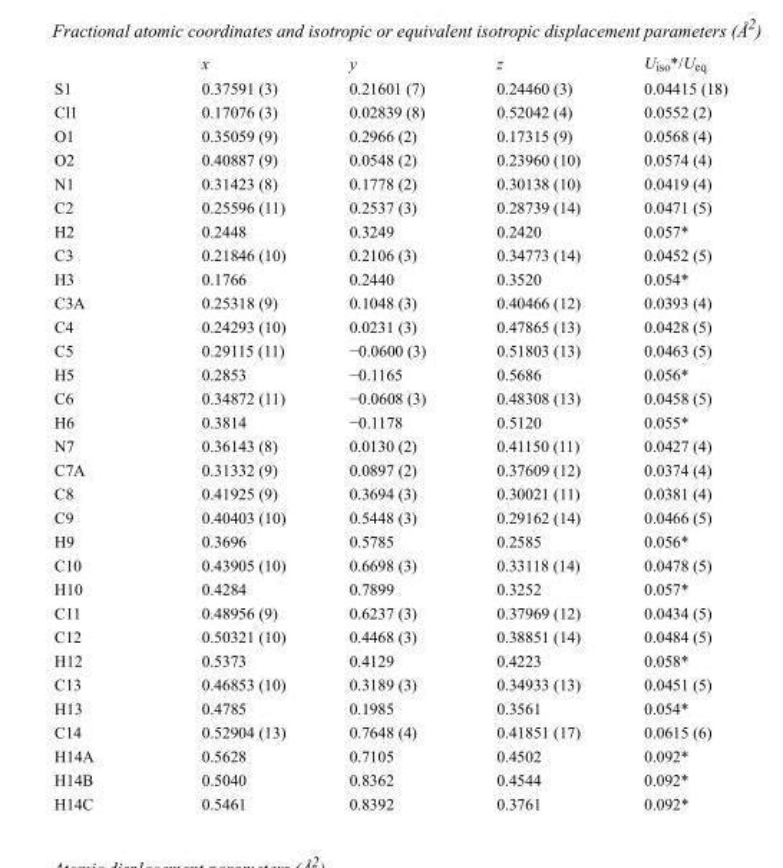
<table><thead><tr><td></td><td>x</td><td>y</td><td>z</td><td>U<sub>iso</sub>*/U<sub>eq</sub></td></tr></thead><tbody><tr><td>S1</td><td>0.37591 (3)</td><td>0.21601 (7)</td><td>0.24460 (3)</td><td>0.04415 (18)</td></tr><tr><td>Cl1</td><td>0.17076 (3)</td><td>0.02839 (8)</td><td>0.52042 (4)</td><td>0.0552 (2)</td></tr><tr><td>O1</td><td>0.35059 (9)</td><td>0.2966 (2)</td><td>0.17315 (9)</td><td>0.0568 (4)</td></tr><tr><td>O2</td><td>0.40887 (9)</td><td>0.0548 (2)</td><td>0.23960 (10)</td><td>0.0574 (4)</td></tr><tr><td>N1</td><td>0.31423 (8)</td><td>0.1778 (2)</td><td>0.30138 (10)</td><td>0.0419 (4)</td></tr><tr><td>C2</td><td>0.25596 (11)</td><td>0.2537 (3)</td><td>0.28739 (14)</td><td>0.0471 (5)</td></tr><tr><td>H2</td><td>0.2448</td><td>0.3249</td><td>0.2420</td><td>0.057*</td></tr><tr><td>C3</td><td>0.21846 (10)</td><td>0.2106 (3)</td><td>0.34773 (14)</td><td>0.0452 (5)</td></tr><tr><td>H3</td><td>0.1766</td><td>0.2440</td><td>0.3520</td><td>0.054*</td></tr><tr><td>C3A</td><td>0.25318 (9)</td><td>0.1048 (3)</td><td>0.40466 (12)</td><td>0.0393 (4)</td></tr><tr><td>C4</td><td>0.24293 (10)</td><td>0.0231 (3)</td><td>0.47865 (13)</td><td>0.0428 (5)</td></tr><tr><td>C5</td><td>0.29115 (11)</td><td>−0.0600 (3)</td><td>0.51803 (13)</td><td>0.0463 (5)</td></tr><tr><td>H5</td><td>0.2853</td><td>−0.1165</td><td>0.5686</td><td>0.056*</td></tr><tr><td>C6</td><td>0.34872 (11)</td><td>−0.0608 (3)</td><td>0.48308 (13)</td><td>0.0458 (5)</td></tr><tr><td>H6</td><td>0.3814</td><td>−0.1178</td><td>0.5120</td><td>0.055*</td></tr><tr><td>N7</td><td>0.36143 (8)</td><td>0.0130 (2)</td><td>0.41150 (11)</td><td>0.0427 (4)</td></tr><tr><td>C7A</td><td>0.31332 (9)</td><td>0.0897 (2)</td><td>0.37609 (12)</td><td>0.0374 (4)</td></tr><tr><td>C8</td><td>0.41925 (9)</td><td>0.3694 (3)</td><td>0.30021 (11)</td><td>0.0381 (4)</td></tr><tr><td>C9</td><td>0.40403 (10)</td><td>0.5448 (3)</td><td>0.29162 (14)</td><td>0.0466 (5)</td></tr><tr><td>H9</td><td>0.3696</td><td>0.5785</td><td>0.2585</td><td>0.056*</td></tr><tr><td>C10</td><td>0.43905 (10)</td><td>0.6698 (3)</td><td>0.33118 (14)</td><td>0.0478 (5)</td></tr><tr><td>H10</td><td>0.4284</td><td>0.7899</td><td>0.3252</td><td>0.057*</td></tr><tr><td>C11</td><td>0.48956 (9)</td><td>0.6237 (3)</td><td>0.37969 (12)</td><td>0.0434 (5)</td></tr><tr><td>C12</td><td>0.50321 (10)</td><td>0.4468 (3)</td><td>0.38851 (14)</td><td>0.0484 (5)</td></tr><tr><td>H12</td><td>0.5373</td><td>0.4129</td><td>0.4223</td><td>0.058*</td></tr><tr><td>C13</td><td>0.46853 (10)</td><td>0.3189 (3)</td><td>0.34933 (13)</td><td>0.0451 (5)</td></tr><tr><td>H13</td><td>0.4785</td><td>0.1985</td><td>0.3561</td><td>0.054*</td></tr><tr><td>C14</td><td>0.52904 (13)</td><td>0.7648 (4)</td><td>0.41851 (17)</td><td>0.0615 (6)</td></tr><tr><td>H14A</td><td>0.5628</td><td>0.7105</td><td>0.4502</td><td>0.092*</td></tr><tr><td>H14B</td><td>0.5040</td><td>0.8362</td><td>0.4544</td><td>0.092*</td></tr><tr><td>H14C</td><td>0.5461</td><td>0.8392</td><td>0.3761</td><td>0.092*</td></tr></tbody></table>